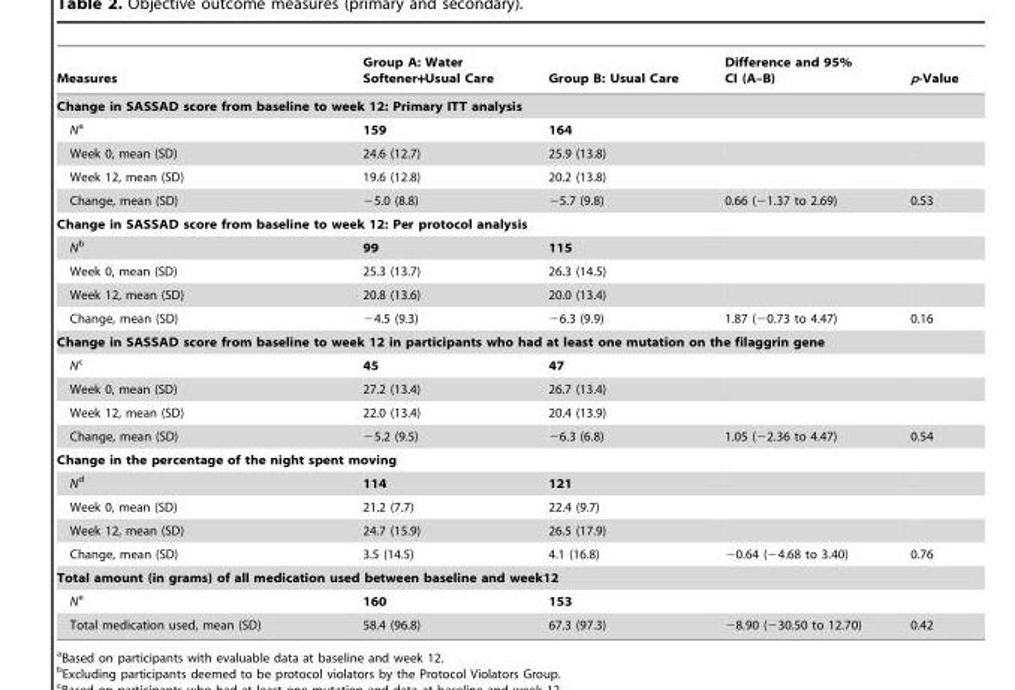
<table><thead><tr><td>Measures</td><td>Group A: Water Softener+Usual Care</td><td>Group B: Usual Care</td><td>Difference and 95% CI (A–B)</td><td>p-Value</td></tr></thead><tbody><tr><td colspan="5">Change in SASSAD score from baseline to week 12: Primary ITT analysis</td></tr><tr><td>Na</td><td>159</td><td>164</td><td></td><td></td></tr><tr><td>Week 0, mean (SD)</td><td>24.6 (12.7)</td><td>25.9 (13.8)</td><td></td><td></td></tr><tr><td>Week 12, mean (SD)</td><td>19.6 (12.8)</td><td>20.2 (13.8)</td><td></td><td></td></tr><tr><td>Change, mean (SD)</td><td>−5.0 (8.8)</td><td>−5.7 (9.8)</td><td>0.66 (−1.37 to 2.69)</td><td>0.53</td></tr><tr><td colspan="5">Change in SASSAD score from baseline to week 12: Per protocol analysis</td></tr><tr><td>Nb</td><td>99</td><td>115</td><td></td><td></td></tr><tr><td>Week 0, mean (SD)</td><td>25.3 (13.7)</td><td>26.3 (14.5)</td><td></td><td></td></tr><tr><td>Week 12, mean (SD)</td><td>20.8 (13.6)</td><td>20.0 (13.4)</td><td></td><td></td></tr><tr><td>Change, mean (SD)</td><td>−4.5 (9.3)</td><td>−6.3 (9.9)</td><td>1.87 (−0.73 to 4.47)</td><td>0.16</td></tr><tr><td colspan="5">Change in SASSAD score from baseline to week 12 in participants who had at least one mutation on the filaggrin gene</td></tr><tr><td>Nc</td><td>45</td><td>47</td><td></td><td></td></tr><tr><td>Week 0, mean (SD)</td><td>27.2 (13.4)</td><td>26.7 (13.4)</td><td></td><td></td></tr><tr><td>Week 12, mean (SD)</td><td>22.0 (13.4)</td><td>20.4 (13.9)</td><td></td><td></td></tr><tr><td>Change, mean (SD)</td><td>−5.2 (9.5)</td><td>−6.3 (6.8)</td><td>1.05 (−2.36 to 4.47)</td><td>0.54</td></tr><tr><td colspan="5">Change in the percentage of the night spent moving</td></tr><tr><td>Nd</td><td>114</td><td>121</td><td></td><td></td></tr><tr><td>Week 0, mean (SD)</td><td>21.2 (7.7)</td><td>22.4 (9.7)</td><td></td><td></td></tr><tr><td>Week 12, mean (SD)</td><td>24.7 (15.9)</td><td>26.5 (17.9)</td><td></td><td></td></tr><tr><td>Change, mean (SD)</td><td>3.5 (14.5)</td><td>4.1 (16.8)</td><td>−0.64 (−4.68 to 3.40)</td><td>0.76</td></tr><tr><td colspan="5">Total amount (in grams) of all medication used between baseline and week12</td></tr><tr><td>Ne</td><td>160</td><td>153</td><td></td><td></td></tr><tr><td>Total medication used, mean (SD)</td><td>58.4 (96.8)</td><td>67.3 (97.3)</td><td>−8.90 (−30.50 to 12.70)</td><td>0.42</td></tr></tbody></table>